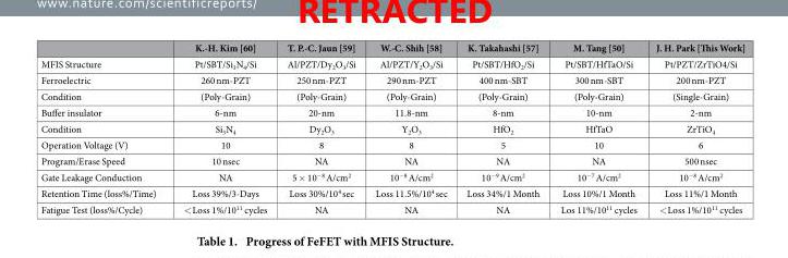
<table><thead><tr><td></td><td>K.-H. Kim [60]</td><td>T. P.-C. Jaun [59]</td><td>W.-C. Shih [58]</td><td>K. Takahashi [57]</td><td>M. Tang [50]</td><td>J. H. Park [This Work]</td></tr></thead><tbody><tr><td>MFIS Structure</td><td>Pt/SBT/Si3N4/Si</td><td>Al/PZT/Dy2O3/Si</td><td>Al/PZT/Y2O3/Si</td><td>Pt/SBT/HfO2/Si</td><td>Pt/SBT/HfTaO/Si</td><td>Pt/PZT/ZrTiO4/Si</td></tr><tr><td>Ferroelectric</td><td>260 nm-PZT</td><td>250 nm-PZT</td><td>290 nm-PZT</td><td>400 nm-SBT</td><td>300 nm-SBT</td><td>200 nm-PZT</td></tr><tr><td>Condition</td><td>(Poly-Grain)</td><td>(Poly-Grain)</td><td>(Poly-Grain)</td><td>(Poly-Grain)</td><td>(Poly-Grain)</td><td>(Single-Grain)</td></tr><tr><td>Buffer insulator</td><td>6-nm</td><td>20-nm</td><td>11.8-nm</td><td>8-nm</td><td>10-nm</td><td>2-nm</td></tr><tr><td>Condition</td><td>Si3N4</td><td>Dy2O3</td><td>Y2O3</td><td>HfO2</td><td>HfTaO</td><td>ZrTiO4</td></tr><tr><td>Operation Voltage (V)</td><td>10</td><td>8</td><td>8</td><td>5</td><td>10</td><td>6</td></tr><tr><td>Program/Erase Speed</td><td>10 nsec</td><td>NA</td><td>NA</td><td>NA</td><td>NA</td><td>500 nsec</td></tr><tr><td>Gate Leakage Conduction</td><td>NA</td><td>5 × 10−8 A/cm2</td><td>10−8 A/cm2</td><td>10−9 A/cm2</td><td>10−7 A/cm2</td><td>10−8 A/cm2</td></tr><tr><td>Retention Time (loss%/Time)</td><td>Loss 39%/3-Days</td><td>Loss 30%/104 sec</td><td>Loss 11.5%/104 sec</td><td>Loss 34%/1 Month</td><td>Loss 10%/1 Month</td><td>Loss 11%/1 Month</td></tr><tr><td>Fatigue Test (loss%/Cycle)</td><td>&lt; Loss 1%/1011 cycles</td><td>NA</td><td>NA</td><td>NA</td><td>Los 11%/1011 cycles</td><td>&lt; Loss 1%/1011 cycles</td></tr></tbody></table>